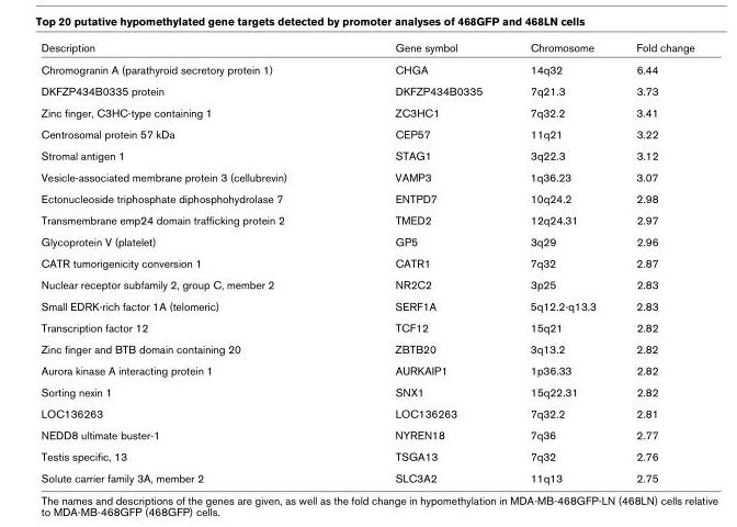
<table><thead><tr><td>Description</td><td>Gene symbol</td><td>Chromosome</td><td>Fold change</td></tr></thead><tbody><tr><td>Chromogranin A (parathyroid secretory protein 1)</td><td>CHGA</td><td>14q32</td><td>6.44</td></tr><tr><td>DKFZP434B0335 protein</td><td>DKFZP434B0335</td><td>7q21.3</td><td>3.73</td></tr><tr><td>Zinc finger, C3HC-type containing 1</td><td>ZC3HC1</td><td>7q32.2</td><td>3.41</td></tr><tr><td>Centrosomal protein 57 kDa</td><td>CEP57</td><td>11q21</td><td>3.22</td></tr><tr><td>Stromal antigen 1</td><td>STAG1</td><td>3q22.3</td><td>3.12</td></tr><tr><td>Vesicle-associated membrane protein 3 (cellubrevin)</td><td>VAMP3</td><td>1q36.23</td><td>3.07</td></tr><tr><td>Ectonucleoside triphosphate diphosphohydrolase 7</td><td>ENTPD7</td><td>10q24.2</td><td>2.98</td></tr><tr><td>Transmembrane emp24 domain trafficking protein 2</td><td>TMED2</td><td>12q24.31</td><td>2.97</td></tr><tr><td>Glycoprotein V (platelet)</td><td>GP5</td><td>3q29</td><td>2.96</td></tr><tr><td>CATR tumorigenicity conversion 1</td><td>CATR1</td><td>7q32</td><td>2.87</td></tr><tr><td>Nuclear receptor subfamily 2, group C, member 2</td><td>NR2C2</td><td>3p25</td><td>2.83</td></tr><tr><td>Small EDRK-rich factor 1A (telomeric)</td><td>SERF1A</td><td>5q12.2-q13.3</td><td>2.83</td></tr><tr><td>Transcription factor 12</td><td>TCF12</td><td>15q21</td><td>2.82</td></tr><tr><td>Zinc finger and BTB domain containing 20</td><td>ZBTB20</td><td>3q13.2</td><td>2.82</td></tr><tr><td>Aurora kinase A interacting protein 1</td><td>AURKAIP1</td><td>1p36.33</td><td>2.82</td></tr><tr><td>Sorting nexin 1</td><td>SNX1</td><td>15q22.31</td><td>2.82</td></tr><tr><td>LOC136263</td><td>LOC136263</td><td>7q32.2</td><td>2.81</td></tr><tr><td>NEDD8 ultimate buster-1</td><td>NYREN18</td><td>7q36</td><td>2.77</td></tr><tr><td>Testis specific, 13</td><td>TSGA13</td><td>7q32</td><td>2.76</td></tr><tr><td>Solute carrier family 3A, member 2</td><td>SLC3A2</td><td>11q13</td><td>2.75</td></tr></tbody></table>